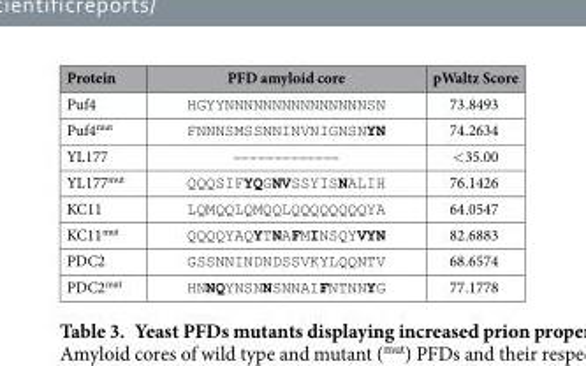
<table><thead><tr><td>Protein</td><td>PFD amyloid core</td><td>pWaltz Score</td></tr></thead><tbody><tr><td>Puf4</td><td>HGYYNNNNNNNNNNNNNNNSN</td><td>73.8493</td></tr><tr><td>Puf4<sup>mut</sup></td><td>FNNNSMSSNNINVNIGNSNYN</td><td>74.2634</td></tr><tr><td>YL177</td><td>–––––––––––––</td><td>&lt; 35.00</td></tr><tr><td>YL177<sup>mut</sup></td><td>QQQSIFYQGNVSSYISNALIH</td><td>76.1426</td></tr><tr><td>KC11</td><td>LQMQQLQMQQLQQQQQQQQYA</td><td>64.0547</td></tr><tr><td>KC11<sup>mut</sup></td><td>QQQQYAQYTNAFMINSQYVYN</td><td>82.6883</td></tr><tr><td>PDC2</td><td>GSSNNINDNDSSVKYLQQNTV</td><td>68.6574</td></tr><tr><td>PDC2<sup>mut</sup></td><td>HNNQYNSNNSNNAIFNTNNYG</td><td>77.1778</td></tr></tbody></table>